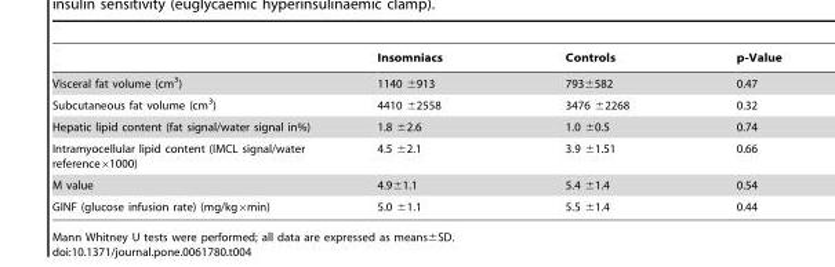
<table><thead><tr><td></td><td>Insomniacs</td><td>Controls</td><td>p-Value</td></tr></thead><tbody><tr><td>Visceral fat volume (cm<sup>3</sup>)</td><td>1140 ±913</td><td>793±582</td><td>0.47</td></tr><tr><td>Subcutaneous fat volume (cm<sup>3</sup>)</td><td>4410 ±2558</td><td>3476 ±2268</td><td>0.32</td></tr><tr><td>Hepatic lipid content (fat signal/water signal in%)</td><td>1.8 ±2.6</td><td>1.0 ±0.5</td><td>0.74</td></tr><tr><td>Intramyocellular lipid content (IMCL signal/water reference×1000)</td><td>4.5 ±2.1</td><td>3.9 ±1.51</td><td>0.66</td></tr><tr><td>M value</td><td>4.9±1.1</td><td>5.4 ±1.4</td><td>0.54</td></tr><tr><td>GINF (glucose infusion rate) (mg/kg×min)</td><td>5.0 ±1.1</td><td>5.5 ±1.4</td><td>0.44</td></tr></tbody></table>